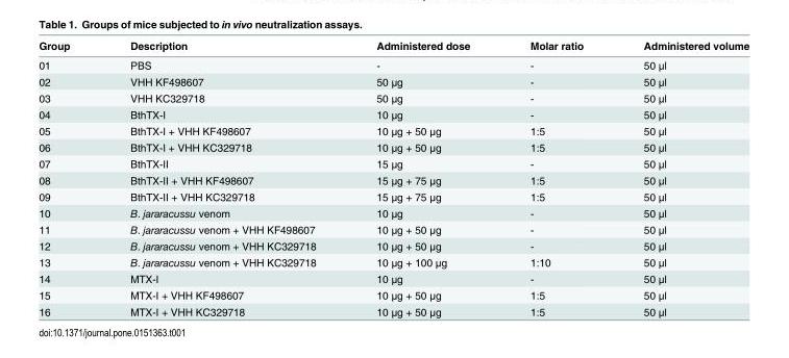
<table><thead><tr><td>Group</td><td>Description</td><td>Administered dose</td><td>Molar ratio</td><td>Administered volume</td></tr></thead><tbody><tr><td>01</td><td>PBS</td><td>-</td><td>-</td><td>50 μl</td></tr><tr><td>02</td><td>VHH KF498607</td><td>50 μg</td><td>-</td><td>50 μl</td></tr><tr><td>03</td><td>VHH KC329718</td><td>50 μg</td><td>-</td><td>50 μl</td></tr><tr><td>04</td><td>BthTX-I</td><td>10 μg</td><td>-</td><td>50 μl</td></tr><tr><td>05</td><td>BthTX-I + VHH KF498607</td><td>10 μg + 50 μg</td><td>1:5</td><td>50 μl</td></tr><tr><td>06</td><td>BthTX-I + VHH KC329718</td><td>10 μg + 50 μg</td><td>1:5</td><td>50 μl</td></tr><tr><td>07</td><td>BthTX-II</td><td>15 μg</td><td>-</td><td>50 μl</td></tr><tr><td>08</td><td>BthTX-II + VHH KF498607</td><td>15 μg + 75 μg</td><td>1:5</td><td>50 μl</td></tr><tr><td>09</td><td>BthTX-II + VHH KC329718</td><td>15 μg + 75 μg</td><td>1:5</td><td>50 μl</td></tr><tr><td>10</td><td>B. jararacussu venom</td><td>10 μg</td><td>-</td><td>50 μl</td></tr><tr><td>11</td><td>B. jararacussu venom + VHH KF498607</td><td>10 μg + 50 μg</td><td>-</td><td>50 μl</td></tr><tr><td>12</td><td>B. jararacussu venom + VHH KC329718</td><td>10 μg + 50 μg</td><td>-</td><td>50 μl</td></tr><tr><td>13</td><td>B. jararacussu venom + VHH KC329718</td><td>10 μg + 100 μg</td><td>1:10</td><td>50 μl</td></tr><tr><td>14</td><td>MTX-I</td><td>10 μg</td><td>-</td><td>50 μl</td></tr><tr><td>15</td><td>MTX-I + VHH KF498607</td><td>10 μg + 50 μg</td><td>1:5</td><td>50 μl</td></tr><tr><td>16</td><td>MTX-I + VHH KC329718</td><td>10 μg + 50 μg</td><td>1:5</td><td>50 μl</td></tr></tbody></table>